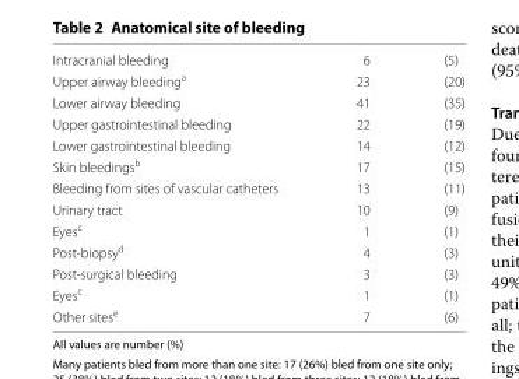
<table><tbody><tr><td>Intracranial bleeding</td><td>6</td><td>(5)</td></tr><tr><td>Upper airway bleeding<sup>a</sup></td><td>23</td><td>(20)</td></tr><tr><td>Lower airway bleeding</td><td>41</td><td>(35)</td></tr><tr><td>Upper gastrointestinal bleeding</td><td>22</td><td>(19)</td></tr><tr><td>Lower gastrointestinal bleeding</td><td>14</td><td>(12)</td></tr><tr><td>Skin bleedings<sup>b</sup></td><td>17</td><td>(15)</td></tr><tr><td>Bleeding from sites of vascular catheters</td><td>13</td><td>(11)</td></tr><tr><td>Urinary tract</td><td>10</td><td>(9)</td></tr><tr><td>Eyes<sup>c</sup></td><td>1</td><td>(1)</td></tr><tr><td>Post-biopsy<sup>d</sup></td><td>4</td><td>(3)</td></tr><tr><td>Post-surgical bleeding</td><td>3</td><td>(3)</td></tr><tr><td>Eyes<sup>c</sup></td><td>1</td><td>(1)</td></tr><tr><td>Other sites<sup>e</sup></td><td>7</td><td>(6)</td></tr></tbody></table>